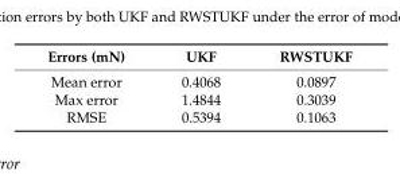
<table><thead><tr><td>Errors (mN)</td><td>UKF</td><td>RWSTUKF</td></tr></thead><tbody><tr><td>Mean error</td><td>0.4068</td><td>0.0897</td></tr><tr><td>Max error</td><td>1.4844</td><td>0.3039</td></tr><tr><td>RMSE</td><td>0.5394</td><td>0.1063</td></tr></tbody></table>